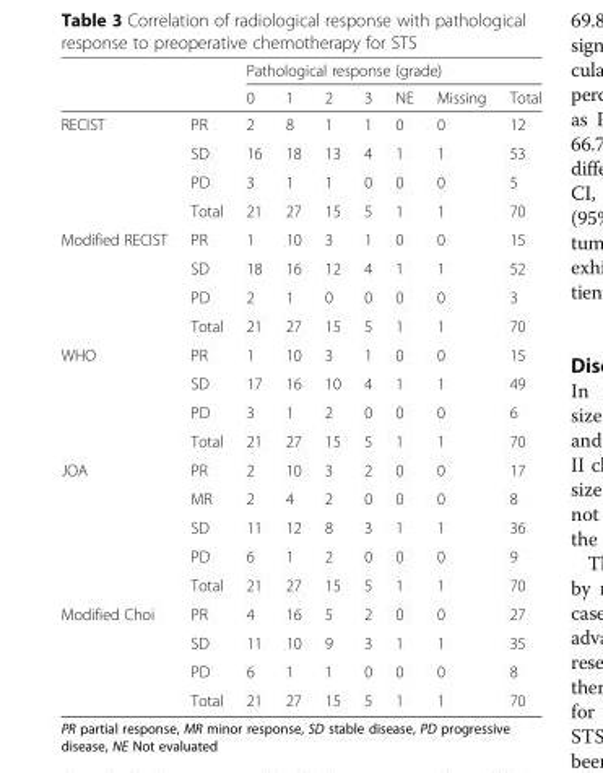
<table><thead><tr><td rowspan="2"></td><td rowspan="2"></td><td colspan="7">Pathological response (grade)</td></tr><tr><td>0</td><td>1</td><td>2</td><td>3</td><td>NE</td><td>Missing</td><td>Total</td></tr></thead><tbody><tr><td rowspan="4">RECIST</td><td>PR</td><td>2</td><td>8</td><td>1</td><td>1</td><td>0</td><td>0</td><td>12</td></tr><tr><td>SD</td><td>16</td><td>18</td><td>13</td><td>4</td><td>1</td><td>1</td><td>53</td></tr><tr><td>PD</td><td>3</td><td>1</td><td>1</td><td>0</td><td>0</td><td>0</td><td>5</td></tr><tr><td>Total</td><td>21</td><td>27</td><td>15</td><td>5</td><td>1</td><td>1</td><td>70</td></tr><tr><td rowspan="4">Modified RECIST</td><td>PR</td><td>1</td><td>10</td><td>3</td><td>1</td><td>0</td><td>0</td><td>15</td></tr><tr><td>SD</td><td>18</td><td>16</td><td>12</td><td>4</td><td>1</td><td>1</td><td>52</td></tr><tr><td>PD</td><td>2</td><td>1</td><td>0</td><td>0</td><td>0</td><td>0</td><td>3</td></tr><tr><td>Total</td><td>21</td><td>27</td><td>15</td><td>5</td><td>1</td><td>1</td><td>70</td></tr><tr><td rowspan="4">WHO</td><td>PR</td><td>1</td><td>10</td><td>3</td><td>1</td><td>0</td><td>0</td><td>15</td></tr><tr><td>SD</td><td>17</td><td>16</td><td>10</td><td>4</td><td>1</td><td>1</td><td>49</td></tr><tr><td>PD</td><td>3</td><td>1</td><td>2</td><td>0</td><td>0</td><td>0</td><td>6</td></tr><tr><td>Total</td><td>21</td><td>27</td><td>15</td><td>5</td><td>1</td><td>1</td><td>70</td></tr><tr><td rowspan="5">JOA</td><td>PR</td><td>2</td><td>10</td><td>3</td><td>2</td><td>0</td><td>0</td><td>17</td></tr><tr><td>MR</td><td>2</td><td>4</td><td>2</td><td>0</td><td>0</td><td>0</td><td>8</td></tr><tr><td>SD</td><td>11</td><td>12</td><td>8</td><td>3</td><td>1</td><td>1</td><td>36</td></tr><tr><td>PD</td><td>6</td><td>1</td><td>2</td><td>0</td><td>0</td><td>0</td><td>9</td></tr><tr><td>Total</td><td>21</td><td>27</td><td>15</td><td>5</td><td>1</td><td>1</td><td>70</td></tr><tr><td rowspan="4">Modified Choi</td><td>PR</td><td>4</td><td>16</td><td>5</td><td>2</td><td>0</td><td>0</td><td>27</td></tr><tr><td>SD</td><td>11</td><td>10</td><td>9</td><td>3</td><td>1</td><td>1</td><td>35</td></tr><tr><td>PD</td><td>6</td><td>1</td><td>1</td><td>0</td><td>0</td><td>0</td><td>8</td></tr><tr><td>Total</td><td>21</td><td>27</td><td>15</td><td>5</td><td>1</td><td>1</td><td>70</td></tr></tbody></table>